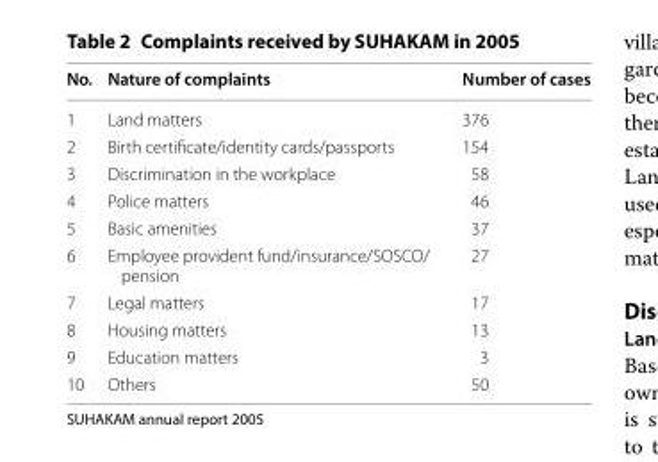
<table><thead><tr><td>No.</td><td>Nature of complaints</td><td>Number of cases</td></tr></thead><tbody><tr><td>1</td><td>Land matters</td><td>376</td></tr><tr><td>2</td><td>Birth certificate/identity cards/passports</td><td>154</td></tr><tr><td>3</td><td>Discrimination in the workplace</td><td>58</td></tr><tr><td>4</td><td>Police matters</td><td>46</td></tr><tr><td>5</td><td>Basic amenities</td><td>37</td></tr><tr><td>6</td><td>Employee provident fund/insurance/SOSCO/ pension</td><td>27</td></tr><tr><td>7</td><td>Legal matters</td><td>17</td></tr><tr><td>8</td><td>Housing matters</td><td>13</td></tr><tr><td>9</td><td>Education matters</td><td>3</td></tr><tr><td>10</td><td>Others</td><td>50</td></tr></tbody></table>